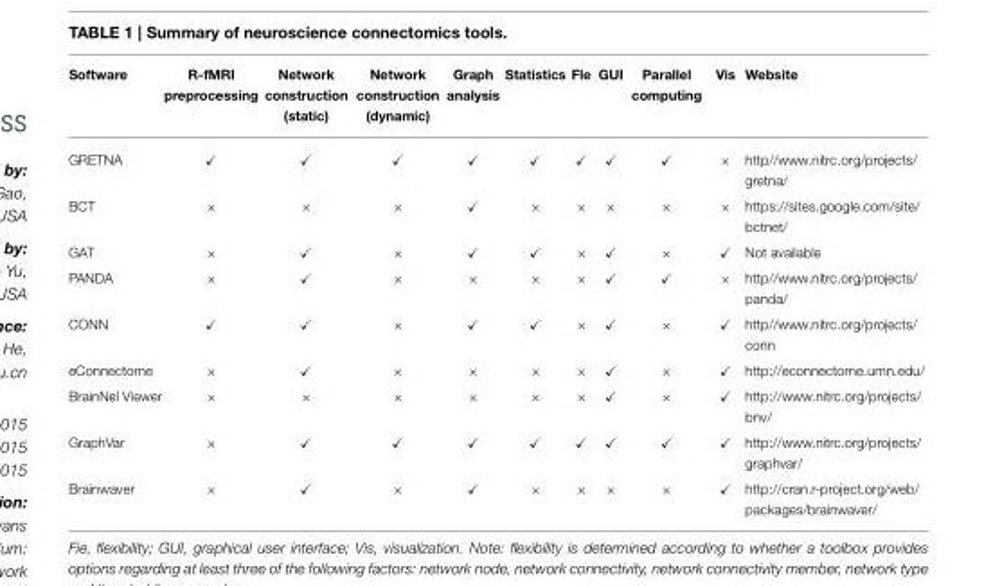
<table><thead><tr><td>Software</td><td>R-fMRI preprocessing</td><td>Network construction (static)</td><td>Network construction (dynamic)</td><td>Graph analysis</td><td>Statistics</td><td>Fle</td><td>GUI</td><td>Parallel computing</td><td>Vis</td><td>Website</td></tr></thead><tbody><tr><td>GRETNA</td><td>✓</td><td>✓</td><td>✓</td><td>✓</td><td>✓</td><td>✓</td><td>✓</td><td>✓</td><td>×</td><td>http//www.nitrc.org/projects/ gretna/</td></tr><tr><td>BCT</td><td>×</td><td>×</td><td>×</td><td>✓</td><td>×</td><td>×</td><td>×</td><td>×</td><td>×</td><td>https://sites.google.com/site/ bctnet/</td></tr><tr><td>GAT</td><td>×</td><td>✓</td><td>×</td><td>✓</td><td>✓</td><td>×</td><td>✓</td><td>×</td><td>✓</td><td>Not available</td></tr><tr><td>PANDA</td><td>×</td><td>✓</td><td>×</td><td>×</td><td>×</td><td>×</td><td>✓</td><td>✓</td><td>×</td><td>http//www.nitrc.org/projects/ panda/</td></tr><tr><td>CONN</td><td>✓</td><td>✓</td><td>×</td><td>✓</td><td>✓</td><td>×</td><td>✓</td><td>×</td><td>✓</td><td>http//www.nitrc.org/projects/ conn</td></tr><tr><td>eConnectome</td><td>×</td><td>✓</td><td>×</td><td>×</td><td>×</td><td>×</td><td>✓</td><td>×</td><td>✓</td><td>http://econnectome.umn.edu/</td></tr><tr><td>BrainNel Viewer</td><td>×</td><td>×</td><td>×</td><td>×</td><td>×</td><td>×</td><td>✓</td><td>×</td><td>✓</td><td>http://www.nitrc.org/projects/ bnv/</td></tr><tr><td>GraphVar</td><td>×</td><td>✓</td><td>✓</td><td>✓</td><td>✓</td><td>✓</td><td>✓</td><td>✓</td><td>✓</td><td>http://www.nitrc.org/projects/ graphvar/</td></tr><tr><td>Brainwaver</td><td>×</td><td>✓</td><td>×</td><td>✓</td><td>×</td><td>×</td><td>×</td><td>×</td><td>✓</td><td>http://cran.r-project.org/web/ packages/brainwaver/</td></tr></tbody></table>